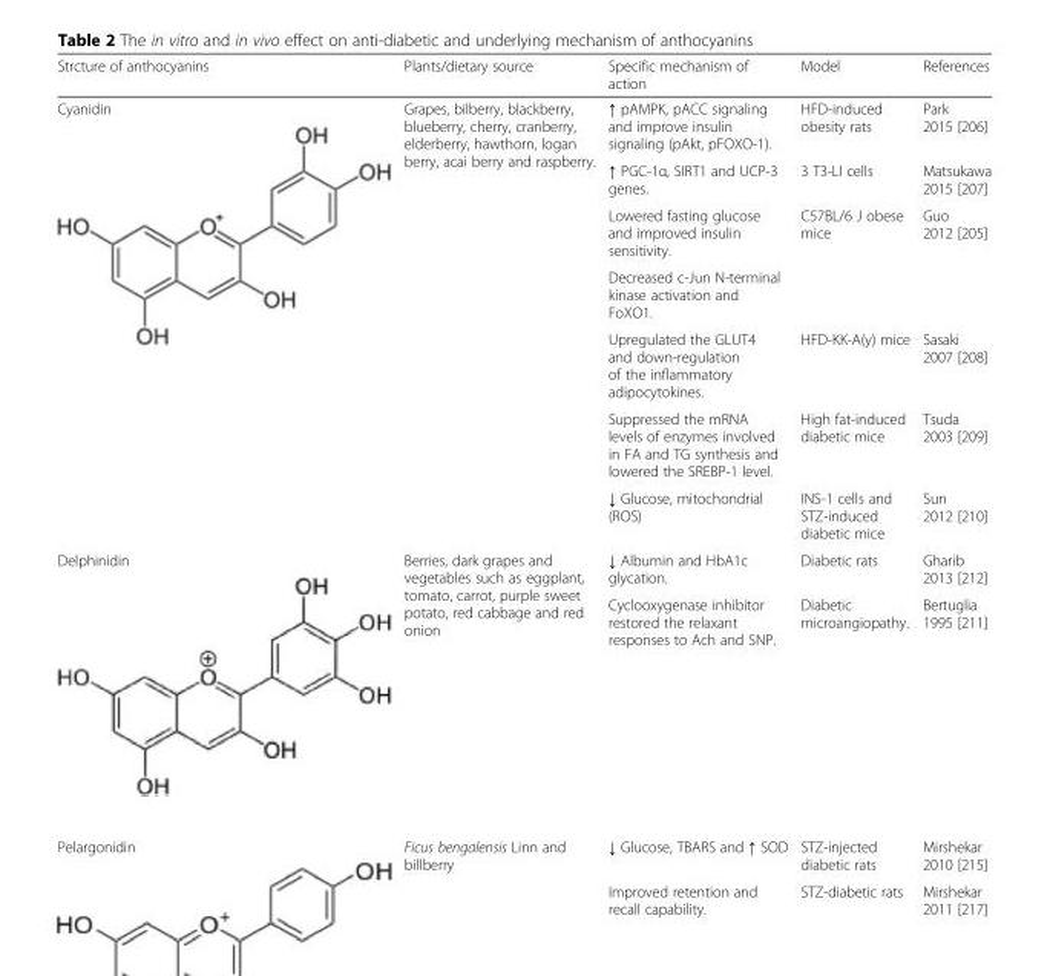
<table><thead><tr><td>Strcture of anthocyanins</td><td>Plants/dietary source</td><td>Specific mechanism of action</td><td>Model</td><td>References</td></tr></thead><tbody><tr><td rowspan="7">Cyanidin</td><td rowspan="7">Grapes, bilberry, blackberry, blueberry, cherry, cranberry, elderberry, hawthorn, logan berry, acai berry and raspberry.</td><td>↑ pAMPK, pACC signaling and improve insulin signaling (pAkt, pFOXO-1).</td><td>HFD-induced obesity rats</td><td>Park 2015 [206]</td></tr><tr><td>↑ PGC-1α, SIRT1 and UCP-3 genes.</td><td>3 T3-Ll cells</td><td>Matsukawa 2015 [207]</td></tr><tr><td>Lowered fasting glucose and improved insulin sensitivity.</td><td rowspan="2">C57BL/6 J obese mice</td><td rowspan="2">Guo 2012 [205]</td></tr><tr><td>Decreased c-Jun N-terminal kinase activation and FoXO1.</td></tr><tr><td>Upregulated the GLUT4 and down-regulation of the inflammatory adipocytokines.</td><td>HFD-KK-A(y) mice</td><td>Sasaki 2007 [208]</td></tr><tr><td>Suppressed the mRNA levels of enzymes involved in FA and TG synthesis and lowered the SREBP-1 level.</td><td>High fat-induced diabetic mice</td><td>Tsuda 2003 [209]</td></tr><tr><td>↓ Glucose, mitochondrial (ROS)</td><td>INS-1 cells and STZ-induced diabetic mice</td><td>Sun 2012 [210]</td></tr><tr><td rowspan="2">Delphinidin</td><td rowspan="2">Berries, dark grapes and vegetables such as eggplant, tomato, carrot, purple sweet potato, red cabbage and red onion</td><td>↓ Albumin and HbA1c glycation.</td><td>Diabetic rats</td><td>Gharib 2013 [212]</td></tr><tr><td>Cyclooxygenase inhibitor restored the relaxant responses to Ach and SNP.</td><td>Diabetic microangiopathy.</td><td>Bertuglia 1995 [211]</td></tr><tr><td rowspan="2">Pelargonidin</td><td rowspan="2">Ficus bengalensis Linn and billberry</td><td>↓ Glucose, TBARS and ↑ SOD</td><td>STZ-injected diabetic rats</td><td>Mirshekar 2010 [215]</td></tr><tr><td>Improved retention and recall capability.</td><td>STZ-diabetic rats</td><td>Mirshekar 2011 [217]</td></tr></tbody></table>